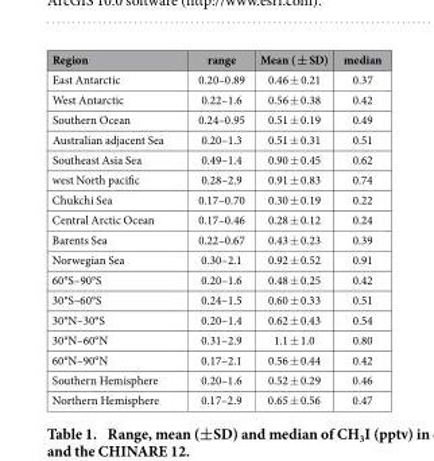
<table><thead><tr><td>Region</td><td>range</td><td>Mean ( ± SD)</td><td>median</td></tr></thead><tbody><tr><td>East Antarctic</td><td>0.20–0.89</td><td>0.46 ± 0.21</td><td>0.37</td></tr><tr><td>West Antarctic</td><td>0.22–1.6</td><td>0.56 ± 0.38</td><td>0.42</td></tr><tr><td>Southern Ocean</td><td>0.24–0.95</td><td>0.51 ± 0.19</td><td>0.49</td></tr><tr><td>Australian adjacent Sea</td><td>0.20–1.3</td><td>0.51 ± 0.31</td><td>0.51</td></tr><tr><td>Southeast Asia Sea</td><td>0.49–1.4</td><td>0.90 ± 0.45</td><td>0.62</td></tr><tr><td>west North pacific</td><td>0.28–2.9</td><td>0.91 ± 0.83</td><td>0.74</td></tr><tr><td>Chukchi Sea</td><td>0.17–0.70</td><td>0.30 ± 0.19</td><td>0.22</td></tr><tr><td>Central Arctic Ocean</td><td>0.17–0.46</td><td>0.28 ± 0.12</td><td>0.24</td></tr><tr><td>Barents Sea</td><td>0.22–0.67</td><td>0.43 ± 0.23</td><td>0.39</td></tr><tr><td>Norwegian Sea</td><td>0.30–2.1</td><td>0.92 ± 0.52</td><td>0.91</td></tr><tr><td>60°S–90°S</td><td>0.20–1.6</td><td>0.48 ± 0.25</td><td>0.42</td></tr><tr><td>30°S–60°S</td><td>0.24–1.5</td><td>0.60 ± 0.33</td><td>0.51</td></tr><tr><td>30°N–30°S</td><td>0.20–1.4</td><td>0.62 ± 0.43</td><td>0.54</td></tr><tr><td>30°N–60°N</td><td>0.31–2.9</td><td>1.1 ± 1.0</td><td>0.80</td></tr><tr><td>60°N–90°N</td><td>0.17–2.1</td><td>0.56 ± 0.44</td><td>0.42</td></tr><tr><td>Southern Hemisphere</td><td>0.20–1.6</td><td>0.52 ± 0.29</td><td>0.46</td></tr><tr><td>Northern Hemisphere</td><td>0.17–2.9</td><td>0.65 ± 0.56</td><td>0.47</td></tr></tbody></table>